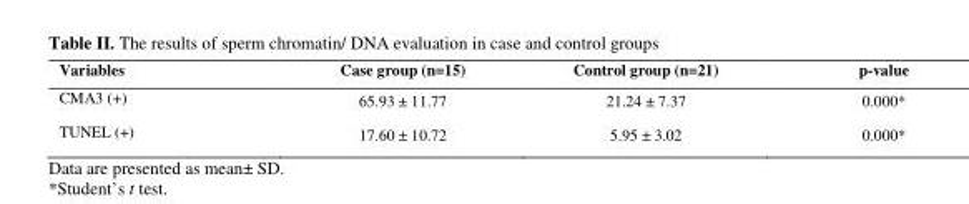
<table><thead><tr><td>Variables</td><td>Case group (n=15)</td><td>Control group (n=21)</td><td>p-value</td></tr></thead><tbody><tr><td>CMA3 (+)</td><td>65.93 ± 11.77</td><td>21.24 ± 7.37</td><td>0.000*</td></tr><tr><td>TUNEL (+)</td><td>17.60 ± 10.72</td><td>5.95 ± 3.02</td><td>0.000*</td></tr></tbody></table>